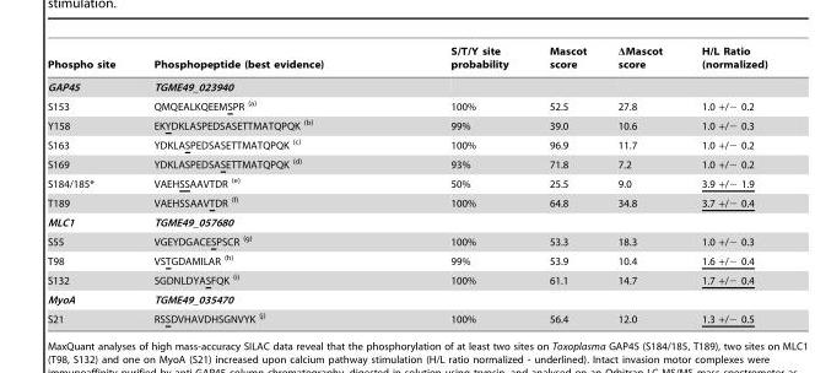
<table><thead><tr><td>Phospho site</td><td>Phosphopeptide (best evidence)</td><td>S/T/Y site probability</td><td>Mascot score</td><td>ΔMascot score</td><td>H/L Ratio (normalized)</td></tr></thead><tbody><tr><td>GAP45</td><td>TGME49_023940</td><td></td><td></td><td></td><td></td></tr><tr><td>S153</td><td>QMQEALKQEEMSPR <sup>(a)</sup></td><td>100%</td><td>52.5</td><td>27.8</td><td>1.0 +/− 0.2</td></tr><tr><td>Y158</td><td>EKYDKLASPEDSASETTMATQPQK <sup>(b)</sup></td><td>99%</td><td>39.0</td><td>10.6</td><td>1.0 +/− 0.3</td></tr><tr><td>S163</td><td>YDKLASPEDSASETTMATQPQK <sup>(c)</sup></td><td>100%</td><td>96.9</td><td>11.7</td><td>1.0 +/− 0.2</td></tr><tr><td>S169</td><td>YDKLASPEDSASETTMATQPQK <sup>(d)</sup></td><td>93%</td><td>71.8</td><td>7.2</td><td>1.0 +/− 0.2</td></tr><tr><td>S184/185*</td><td>VAEHSSAAVTDR <sup>(e)</sup></td><td>50%</td><td>25.5</td><td>9.0</td><td>3.9 +/− 1.9</td></tr><tr><td>T189</td><td>VAEHSSAAVTDR <sup>(f)</sup></td><td>100%</td><td>64.8</td><td>34.8</td><td>3.7 +/− 0.4</td></tr><tr><td>MLC1</td><td>TGME49_057680</td><td></td><td></td><td></td><td></td></tr><tr><td>S55</td><td>VGEYDGACESPSCR <sup>(g)</sup></td><td>100%</td><td>53.3</td><td>18.3</td><td>1.0 +/− 0.3</td></tr><tr><td>T98</td><td>VSTGDAMILAR <sup>(h)</sup></td><td>99%</td><td>53.9</td><td>10.4</td><td>1.6 +/− 0.4</td></tr><tr><td>S132</td><td>SGDNLDYASFQK <sup>(i)</sup></td><td>100%</td><td>61.1</td><td>14.7</td><td>1.7 +/− 0.4</td></tr><tr><td>MyoA</td><td>TGME49_035470</td><td></td><td></td><td></td><td></td></tr><tr><td>S21</td><td>RSSDVHAVDHSGNVYK <sup>(j)</sup></td><td>100%</td><td>56.4</td><td>12.0</td><td>1.3 +/− 0.5</td></tr></tbody></table>